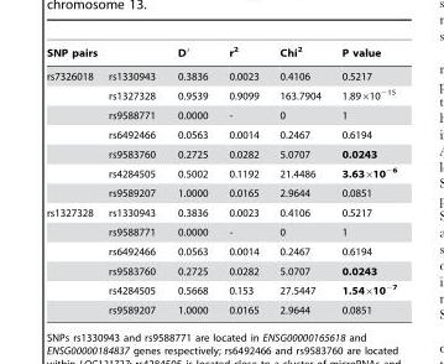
<table><thead><tr><td colspan="2">SNP pairs</td><td rowspan="2">D′ 0.3836</td><td rowspan="2">r<sup>2</sup> 0.0023</td><td rowspan="2">Chi<sup>2</sup> 0.4106</td><td rowspan="2">P value 0.5217</td></tr><tr><td>rs7326018</td><td>rs1330943</td></tr></thead><tbody><tr><td></td><td>rs1327328</td><td>0.9539</td><td>0.9099</td><td>163.7904</td><td>1.89×10<sup>−15</sup></td></tr><tr><td></td><td>rs9588771</td><td>0.0000</td><td>-</td><td>0</td><td>1</td></tr><tr><td></td><td>rs6492466</td><td>0.0563</td><td>0.0014</td><td>0.2467</td><td>0.6194</td></tr><tr><td></td><td>rs9583760</td><td>0.2725</td><td>0.0282</td><td>5.0707</td><td>0.0243</td></tr><tr><td></td><td>rs4284505</td><td>0.5002</td><td>0.1192</td><td>21.4486</td><td>3.63×10<sup>−6</sup></td></tr><tr><td></td><td>rs9589207</td><td>1.0000</td><td>0.0165</td><td>2.9644</td><td>0.0851</td></tr><tr><td rowspan="6">rs1327328</td><td>rs1330943</td><td>0.3836</td><td>0.0023</td><td>0.4106</td><td>0.5217</td></tr><tr><td>rs9588771</td><td>0.0000</td><td>-</td><td>0</td><td>1</td></tr><tr><td>rs6492466</td><td>0.0563</td><td>0.0014</td><td>0.2467</td><td>0.6194</td></tr><tr><td>rs9583760</td><td>0.2725</td><td>0.0282</td><td>5.0707</td><td>0.0243</td></tr><tr><td>rs4284505</td><td>0.5668</td><td>0.153</td><td>27.5447</td><td>1.54×10<sup>−7</sup></td></tr><tr><td>rs9589207</td><td>1.0000</td><td>0.0165</td><td>2.9644</td><td>0.0851</td></tr></tbody></table>